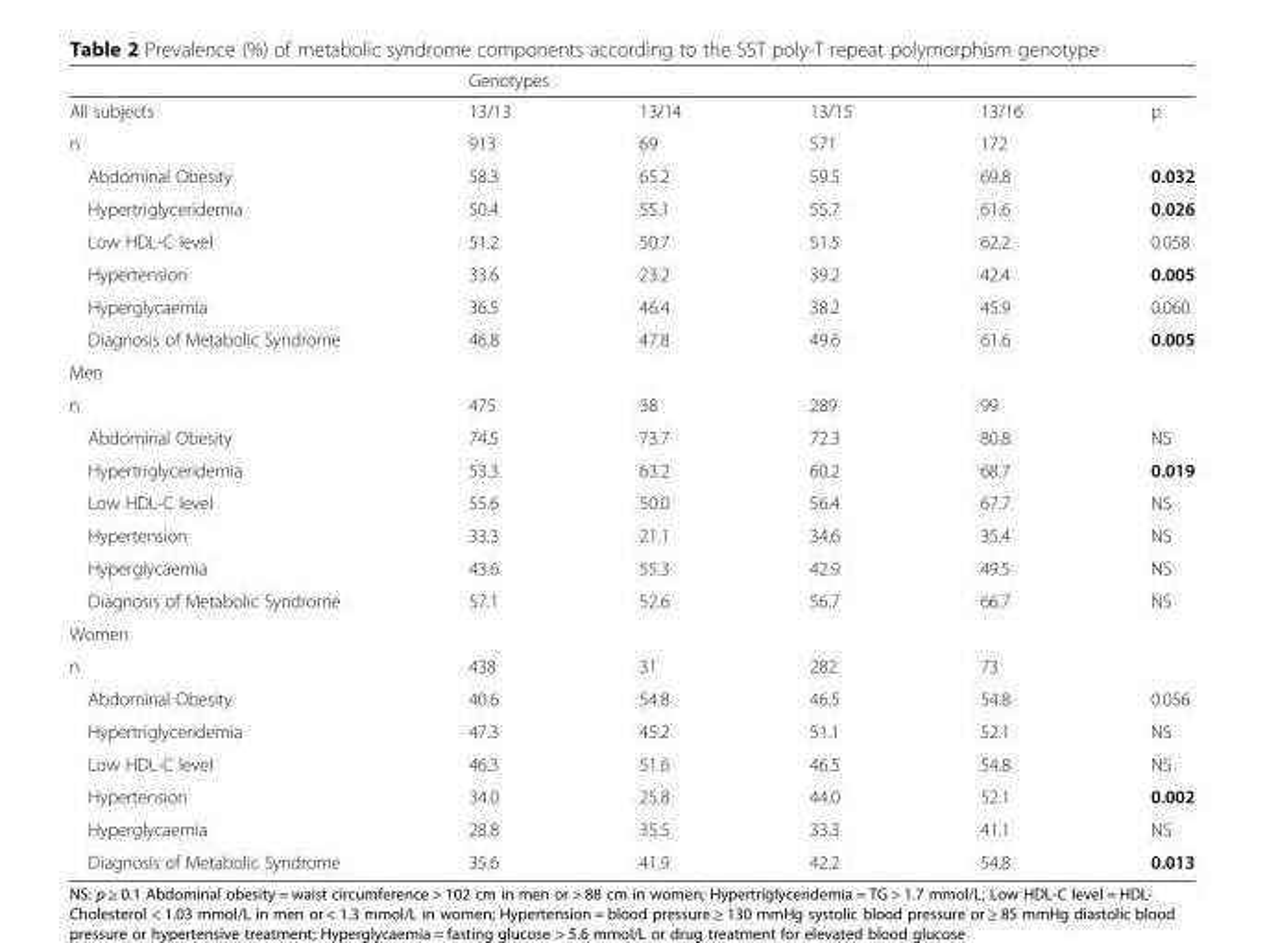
<table><thead><tr><td rowspan="2">All subjects</td><td colspan="5">Genotypes</td></tr><tr><td>13/13</td><td>13/14</td><td>13/15</td><td>13/16</td><td>p</td></tr></thead><tbody><tr><td>n</td><td>913</td><td>69</td><td>571</td><td>172</td><td></td></tr><tr><td>Abdominal Obesity</td><td>58.3</td><td>65.2</td><td>59.5</td><td>69.8</td><td>0.032</td></tr><tr><td>Hypertriglyceridemia</td><td>50.4</td><td>55.1</td><td>55.7</td><td>61.6</td><td>0.026</td></tr><tr><td>Low HDL-C level</td><td>51.2</td><td>50.7</td><td>51.5</td><td>62.2</td><td>0.058</td></tr><tr><td>Hypertension</td><td>33.6</td><td>23.2</td><td>39.2</td><td>42.4</td><td>0.005</td></tr><tr><td>Hyperglycaemia</td><td>36.5</td><td>46.4</td><td>38.2</td><td>45.9</td><td>0.060</td></tr><tr><td>Diagnosis of Metabolic Syndrome</td><td>46.8</td><td>47.8</td><td>49.6</td><td>61.6</td><td>0.005</td></tr><tr><td colspan="6">Men</td></tr><tr><td>n</td><td>475</td><td>38</td><td>289</td><td>99</td><td></td></tr><tr><td>Abdominal Obesity</td><td>74.5</td><td>73.7</td><td>72.3</td><td>80.8</td><td>NS</td></tr><tr><td>Hypertriglyceridemia</td><td>53.3</td><td>63.2</td><td>60.2</td><td>68.7</td><td>0.019</td></tr><tr><td>Low HDL-C level</td><td>55.6</td><td>50.0</td><td>56.4</td><td>67.7</td><td>NS</td></tr><tr><td>Hypertension</td><td>33.3</td><td>21.1</td><td>34.6</td><td>35.4</td><td>NS</td></tr><tr><td>Hyperglycaemia</td><td>43.6</td><td>55.3</td><td>42.9</td><td>49.5</td><td>NS</td></tr><tr><td>Diagnosis of Metabolic Syndrome</td><td>57.1</td><td>52.6</td><td>56.7</td><td>66.7</td><td>NS</td></tr><tr><td colspan="6">Women</td></tr><tr><td>n</td><td>438</td><td>31</td><td>282</td><td>73</td><td></td></tr><tr><td>Abdominal Obesity</td><td>40.6</td><td>54.8</td><td>46.5</td><td>54.8</td><td>0.056</td></tr><tr><td>Hypertriglyceridemia</td><td>47.3</td><td>45.2</td><td>51.1</td><td>52.1</td><td>NS</td></tr><tr><td>Low HDL-C level</td><td>46.3</td><td>51.6</td><td>46.5</td><td>54.8</td><td>NS</td></tr><tr><td>Hypertension</td><td>34.0</td><td>25.8</td><td>44.0</td><td>52.1</td><td>0.002</td></tr><tr><td>Hyperglycaemia</td><td>28.8</td><td>35.5</td><td>33.3</td><td>41.1</td><td>NS</td></tr><tr><td>Diagnosis of Metabolic Syndrome</td><td>35.6</td><td>41.9</td><td>42.2</td><td>54.8</td><td>0.013</td></tr></tbody></table>